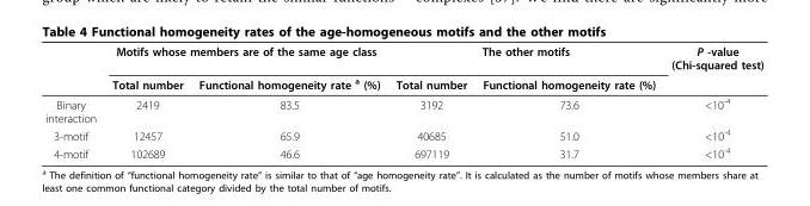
<table><thead><tr><td rowspan="2"></td><td colspan="2">Motifs whose members are of the same age class</td><td colspan="2">The other motifs</td><td rowspan="2">P -value (Chi-squared test)</td></tr><tr><td>Total number</td><td>Functional homogeneity rate <sup>a</sup> (%)</td><td>Total number</td><td>Functional homogeneity rate (%)</td></tr></thead><tbody><tr><td>Binary interaction</td><td>2419</td><td>83.5</td><td>3192</td><td>73.6</td><td>&lt;10<sup>-4</sup></td></tr><tr><td>3-motif</td><td>12457</td><td>65.9</td><td>40685</td><td>51.0</td><td>&lt;10<sup>-4</sup></td></tr><tr><td>4-motif</td><td>102689</td><td>46.6</td><td>697119</td><td>31.7</td><td>&lt;10<sup>-4</sup></td></tr></tbody></table>